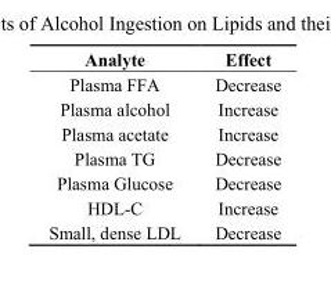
<table><thead><tr><td>Analyte</td><td>Effect</td></tr></thead><tbody><tr><td>Plasma FFA</td><td>Decrease</td></tr><tr><td>Plasma alcohol</td><td>Increase</td></tr><tr><td>Plasma acetate</td><td>Increase</td></tr><tr><td>Plasma TG</td><td>Decrease</td></tr><tr><td>Plasma Glucose</td><td>Decrease</td></tr><tr><td>HDL-C</td><td>Increase</td></tr><tr><td>Small, dense LDL</td><td>Decrease</td></tr></tbody></table>